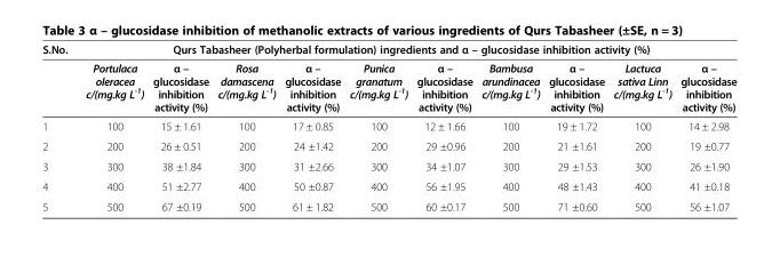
<table><thead><tr><td rowspan="2">S.No.</td><td colspan="10">Qurs Tabasheer (Polyherbal formulation) ingredients and α – glucosidase inhibition activity (%)</td></tr><tr><td>Portulaca oleracea c/(mg.kg L-1)</td><td>α – glucosidase inhibition activity (%)</td><td>Rosa damascena c/(mg.kg L-1)</td><td>α – glucosidase inhibition activity (%)</td><td>Punica granatum c/(mg.kg L-1)</td><td>α – glucosidase inhibition activity (%)</td><td>Bambusa arundinacea c/(mg.kg L-1)</td><td>α – glucosidase inhibition activity (%)</td><td>Lactuca sativa Linn c/(mg.kg L-1)</td><td>α – glucosidase inhibition activity (%)</td></tr></thead><tbody><tr><td>1</td><td>100</td><td>15 ± 1.61</td><td>100</td><td>17 ± 0.85</td><td>100</td><td>12 ± 1.66</td><td>100</td><td>19 ± 1.72</td><td>100</td><td>14 ± 2.98</td></tr><tr><td>2</td><td>200</td><td>26 ± 0.51</td><td>200</td><td>24 ±1.42</td><td>200</td><td>29 ±0.96</td><td>200</td><td>21 ±1.61</td><td>200</td><td>19 ±0.77</td></tr><tr><td>3</td><td>300</td><td>38 ±1.84</td><td>300</td><td>31 ±2.66</td><td>300</td><td>34 ±1.07</td><td>300</td><td>29 ±1.53</td><td>300</td><td>26 ±1.90</td></tr><tr><td>4</td><td>400</td><td>51 ±2.77</td><td>400</td><td>50 ±0.87</td><td>400</td><td>56 ±1.95</td><td>400</td><td>48 ±1.43</td><td>400</td><td>41 ±0.18</td></tr><tr><td>5</td><td>500</td><td>67 ±0.19</td><td>500</td><td>61 ± 1.82</td><td>500</td><td>60 ±0.17</td><td>500</td><td>71 ±0.60</td><td>500</td><td>56 ±1.07</td></tr></tbody></table>